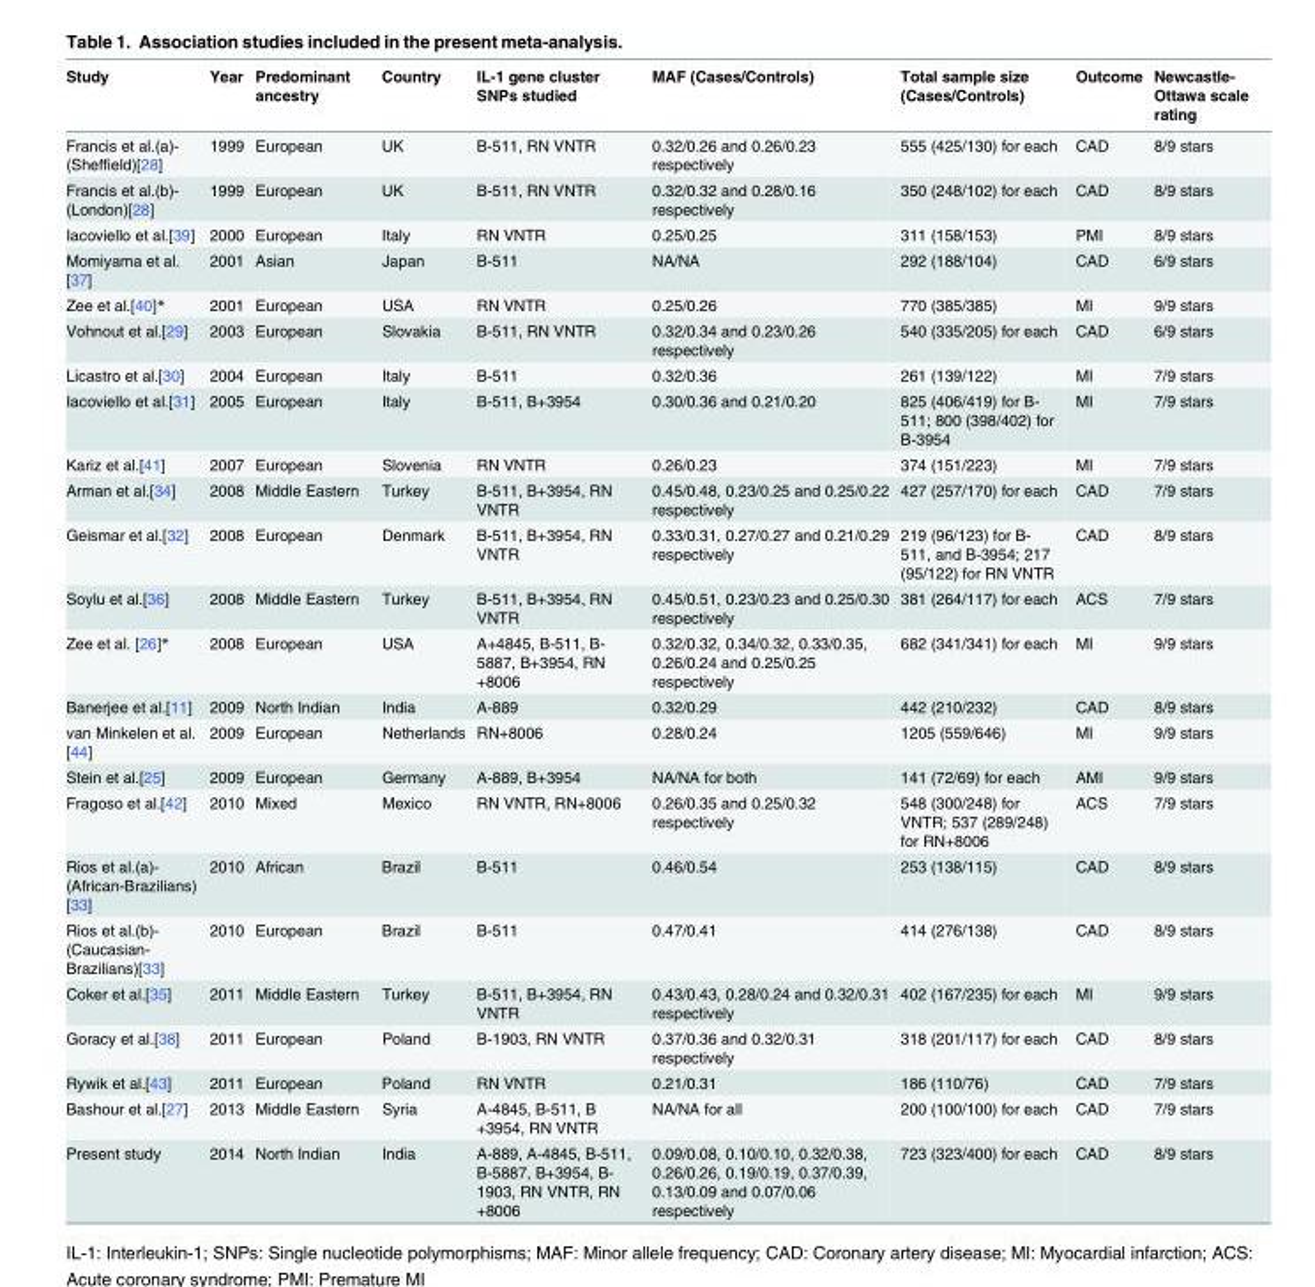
<table><thead><tr><td>Study</td><td>Year</td><td>Predominant ancestry</td><td>Country</td><td>IL-1 gene cluster SNPs studied</td><td>MAF (Cases/Controls)</td><td>Total sample size (Cases/Controls)</td><td>Outcome</td><td>Newcastle- Ottawa scale rating</td></tr></thead><tbody><tr><td>Francis et al.(a)- (Sheffield)[28]</td><td>1999</td><td>European</td><td>UK</td><td>B-511, RN VNTR</td><td>0.32/0.26 and 0.26/0.23 respectively</td><td>555 (425/130) for each</td><td>CAD</td><td>8/9 stars</td></tr><tr><td>Francis et al.(b)- (London)[28]</td><td>1999</td><td>European</td><td>UK</td><td>B-511, RN VNTR</td><td>0.32/0.32 and 0.28/0.16 respectively</td><td>350 (248/102) for each</td><td>CAD</td><td>8/9 stars</td></tr><tr><td>Iacoviello et al.[39]</td><td>2000</td><td>European</td><td>Italy</td><td>RN VNTR</td><td>0.25/0.25</td><td>311 (158/153)</td><td>PMI</td><td>8/9 stars</td></tr><tr><td>Momiyama et al. [37]</td><td>2001</td><td>Asian</td><td>Japan</td><td>B-511</td><td>NA/NA</td><td>292 (188/104)</td><td>CAD</td><td>6/9 stars</td></tr><tr><td>Zee et al.[40]*</td><td>2001</td><td>European</td><td>USA</td><td>RN VNTR</td><td>0.25/0.26</td><td>770 (385/385)</td><td>MI</td><td>9/9 stars</td></tr><tr><td>Vohnout et al.[29]</td><td>2003</td><td>European</td><td>Slovakia</td><td>B-511, RN VNTR</td><td>0.32/0.34 and 0.23/0.26 respectively</td><td>540 (335/205) for each</td><td>CAD</td><td>6/9 stars</td></tr><tr><td>Licastro et al.[30]</td><td>2004</td><td>European</td><td>Italy</td><td>B-511</td><td>0.32/0.36</td><td>261 (139/122)</td><td>MI</td><td>7/9 stars</td></tr><tr><td>Iacoviello et al.[31]</td><td>2005</td><td>European</td><td>Italy</td><td>B-511, B+3954</td><td>0.30/0.36 and 0.21/0.20</td><td>825 (406/419) for B- 511; 800 (398/402) for B-3954</td><td>MI</td><td>7/9 stars</td></tr><tr><td>Kariz et al.[41]</td><td>2007</td><td>European</td><td>Slovenia</td><td>RN VNTR</td><td>0.26/0.23</td><td>374 (151/223)</td><td>MI</td><td>7/9 stars</td></tr><tr><td>Arman et al.[34]</td><td>2008</td><td>Middle Eastern</td><td>Turkey</td><td>B-511, B+3954, RN VNTR</td><td>0.45/0.48, 0.23/0.25 and 0.25/0.22 respectively</td><td>427 (257/170) for each</td><td>CAD</td><td>7/9 stars</td></tr><tr><td>Geismar et al.[32]</td><td>2008</td><td>European</td><td>Denmark</td><td>B-511, B+3954, RN VNTR</td><td>0.33/0.31, 0.27/0.27 and 0.21/0.29 respectively</td><td>219 (96/123) for B- 511, and B-3954; 217 (95/122) for RN VNTR</td><td>CAD</td><td>8/9 stars</td></tr><tr><td>Soylu et al.[36]</td><td>2008</td><td>Middle Eastern</td><td>Turkey</td><td>B-511, B+3954, RN VNTR</td><td>0.45/0.51, 0.23/0.23 and 0.25/0.30 respectively</td><td>381 (264/117) for each</td><td>ACS</td><td>7/9 stars</td></tr><tr><td>Zee et al. [26]*</td><td>2008</td><td>European</td><td>USA</td><td>A+4845, B-511, B- 5887, B+3954, RN +8006</td><td>0.32/0.32, 0.34/0.32, 0.33/0.35, 0.26/0.24 and 0.25/0.25 respectively</td><td>682 (341/341) for each</td><td>MI</td><td>9/9 stars</td></tr><tr><td>Banerjee et al.[11]</td><td>2009</td><td>North Indian</td><td>India</td><td>A-889</td><td>0.32/0.29</td><td>442 (210/232)</td><td>CAD</td><td>8/9 stars</td></tr><tr><td>van Minkelen et al. [44]</td><td>2009</td><td>European</td><td>Netherlands</td><td>RN+8006</td><td>0.28/0.24</td><td>1205 (559/646)</td><td>MI</td><td>9/9 stars</td></tr><tr><td>Stein et al.[25]</td><td>2009</td><td>European</td><td>Germany</td><td>A-889, B+3954</td><td>NA/NA for both</td><td>141 (72/69) for each</td><td>AMI</td><td>9/9 stars</td></tr><tr><td>Fragoso et al.[42]</td><td>2010</td><td>Mixed</td><td>Mexico</td><td>RN VNTR, RN+8006</td><td>0.26/0.35 and 0.25/0.32 respectively</td><td>548 (300/248) for VNTR; 537 (289/248) for RN+8006</td><td>ACS</td><td>7/9 stars</td></tr><tr><td>Rios et al.(a)- (African-Brazilians) [33]</td><td>2010</td><td>African</td><td>Brazil</td><td>B-511</td><td>0.46/0.54</td><td>253 (138/115)</td><td>CAD</td><td>8/9 stars</td></tr><tr><td>Rios et al.(b)- (Caucasian- Brazilians)[33]</td><td>2010</td><td>European</td><td>Brazil</td><td>B-511</td><td>0.47/0.41</td><td>414 (276/138)</td><td>CAD</td><td>8/9 stars</td></tr><tr><td>Coker et al.[35]</td><td>2011</td><td>Middle Eastern</td><td>Turkey</td><td>B-511, B+3954, RN VNTR</td><td>0.43/0.43, 0.28/0.24 and 0.32/0.31 respectively</td><td>402 (167/235) for each</td><td>MI</td><td>9/9 stars</td></tr><tr><td>Goracy et al.[38]</td><td>2011</td><td>European</td><td>Poland</td><td>B-1903, RN VNTR</td><td>0.37/0.36 and 0.32/0.31 respectively</td><td>318 (201/117) for each</td><td>CAD</td><td>8/9 stars</td></tr><tr><td>Rywik et al.[43]</td><td>2011</td><td>European</td><td>Poland</td><td>RN VNTR</td><td>0.21/0.31</td><td>186 (110/76)</td><td>CAD</td><td>7/9 stars</td></tr><tr><td>Bashour et al.[27]</td><td>2013</td><td>Middle Eastern</td><td>Syria</td><td>A-4845, B-511, B +3954, RN VNTR</td><td>NA/NA for all</td><td>200 (100/100) for each</td><td>CAD</td><td>7/9 stars</td></tr><tr><td>Present study</td><td>2014</td><td>North Indian</td><td>India</td><td>A-889, A-4845, B-511, B-5887, B+3954, B- 1903, RN VNTR, RN +8006</td><td>0.09/0.08, 0.10/0.10, 0.32/0.38, 0.26/0.26, 0.19/0.19, 0.37/0.39, 0.13/0.09 and 0.07/0.06 respectively</td><td>723 (323/400) for each</td><td>CAD</td><td>8/9 stars</td></tr></tbody></table>